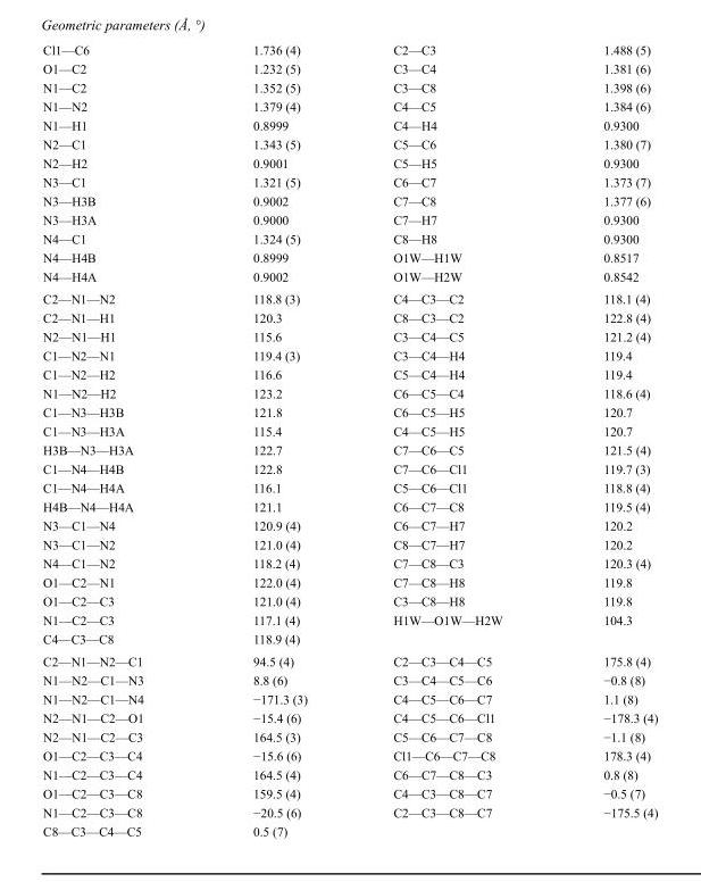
<table><tbody><tr><td>Cl1—C6</td><td>1.736 (4)</td><td>C2—C3</td><td>1.488 (5)</td></tr><tr><td>O1—C2</td><td>1.232 (5)</td><td>C3—C4</td><td>1.381 (6)</td></tr><tr><td>N1—C2</td><td>1.352 (5)</td><td>C3—C8</td><td>1.398 (6)</td></tr><tr><td>N1—N2</td><td>1.379 (4)</td><td>C4—C5</td><td>1.384 (6)</td></tr><tr><td>N1—H1</td><td>0.8999</td><td>C4—H4</td><td>0.9300</td></tr><tr><td>N2—C1</td><td>1.343 (5)</td><td>C5—C6</td><td>1.380 (7)</td></tr><tr><td>N2—H2</td><td>0.9001</td><td>C5—H5</td><td>0.9300</td></tr><tr><td>N3—C1</td><td>1.321 (5)</td><td>C6—C7</td><td>1.373 (7)</td></tr><tr><td>N3—H3B</td><td>0.9002</td><td>C7—C8</td><td>1.377 (6)</td></tr><tr><td>N3—H3A</td><td>0.9000</td><td>C7—H7</td><td>0.9300</td></tr><tr><td>N4—C1</td><td>1.324 (5)</td><td>C8—H8</td><td>0.9300</td></tr><tr><td>N4—H4B</td><td>0.8999</td><td>O1W—H1W</td><td>0.8517</td></tr><tr><td>N4—H4A</td><td>0.9002</td><td>O1W—H2W</td><td>0.8542</td></tr><tr><td>C2—N1—N2</td><td>118.8 (3)</td><td>C4—C3—C2</td><td>118.1 (4)</td></tr><tr><td>C2—N1—H1</td><td>120.3</td><td>C8—C3—C2</td><td>122.8 (4)</td></tr><tr><td>N2—N1—H1</td><td>115.6</td><td>C3—C4—C5</td><td>121.2 (4)</td></tr><tr><td>C1—N2—N1</td><td>119.4 (3)</td><td>C3—C4—H4</td><td>119.4</td></tr><tr><td>C1—N2—H2</td><td>116.6</td><td>C5—C4—H4</td><td>119.4</td></tr><tr><td>N1—N2—H2</td><td>123.2</td><td>C6—C5—C4</td><td>118.6 (4)</td></tr><tr><td>C1—N3—H3B</td><td>121.8</td><td>C6—C5—H5</td><td>120.7</td></tr><tr><td>C1—N3—H3A</td><td>115.4</td><td>C4—C5—H5</td><td>120.7</td></tr><tr><td>H3B—N3—H3A</td><td>122.7</td><td>C7—C6—C5</td><td>121.5 (4)</td></tr><tr><td>C1—N4—H4B</td><td>122.8</td><td>C7—C6—Cl1</td><td>119.7 (3)</td></tr><tr><td>C1—N4—H4A</td><td>116.1</td><td>C5—C6—Cl1</td><td>118.8 (4)</td></tr><tr><td>H4B—N4—H4A</td><td>121.1</td><td>C6—C7—C8</td><td>119.5 (4)</td></tr><tr><td>N3—C1—N4</td><td>120.9 (4)</td><td>C6—C7—H7</td><td>120.2</td></tr><tr><td>N3—C1—N2</td><td>121.0 (4)</td><td>C8—C7—H7</td><td>120.2</td></tr><tr><td>N4—C1—N2</td><td>118.2 (4)</td><td>C7—C8—C3</td><td>120.3 (4)</td></tr><tr><td>O1—C2—N1</td><td>122.0 (4)</td><td>C7—C8—H8</td><td>119.8</td></tr><tr><td>O1—C2—C3</td><td>121.0 (4)</td><td>C3—C8—H8</td><td>119.8</td></tr><tr><td>N1—C2—C3</td><td>117.1 (4)</td><td>H1W—O1W—H2W</td><td>104.3</td></tr><tr><td>C4—C3—C8</td><td>118.9 (4)</td><td></td><td></td></tr><tr><td>C2—N1—N2—C1</td><td>94.5 (4)</td><td>C2—C3—C4—C5</td><td>175.8 (4)</td></tr><tr><td>N1—N2—C1—N3</td><td>8.8 (6)</td><td>C3—C4—C5—C6</td><td>−0.8 (8)</td></tr><tr><td>N1—N2—C1—N4</td><td>−171.3 (3)</td><td>C4—C5—C6—C7</td><td>1.1 (8)</td></tr><tr><td>N2—N1—C2—O1</td><td>−15.4 (6)</td><td>C4—C5—C6—Cl1</td><td>−178.3 (4)</td></tr><tr><td>N2—N1—C2—C3</td><td>164.5 (3)</td><td>C5—C6—C7—C8</td><td>−1.1 (8)</td></tr><tr><td>O1—C2—C3—C4</td><td>−15.6 (6)</td><td>Cl1—C6—C7—C8</td><td>178.3 (4)</td></tr><tr><td>N1—C2—C3—C4</td><td>164.5 (4)</td><td>C6—C7—C8—C3</td><td>0.8 (8)</td></tr><tr><td>O1—C2—C3—C8</td><td>159.5 (4)</td><td>C4—C3—C8—C7</td><td>−0.5 (7)</td></tr><tr><td>N1—C2—C3—C8</td><td>−20.5 (6)</td><td>C2—C3—C8—C7</td><td>−175.5 (4)</td></tr><tr><td>C8—C3—C4—C5</td><td>0.5 (7)</td><td></td><td></td></tr></tbody></table>